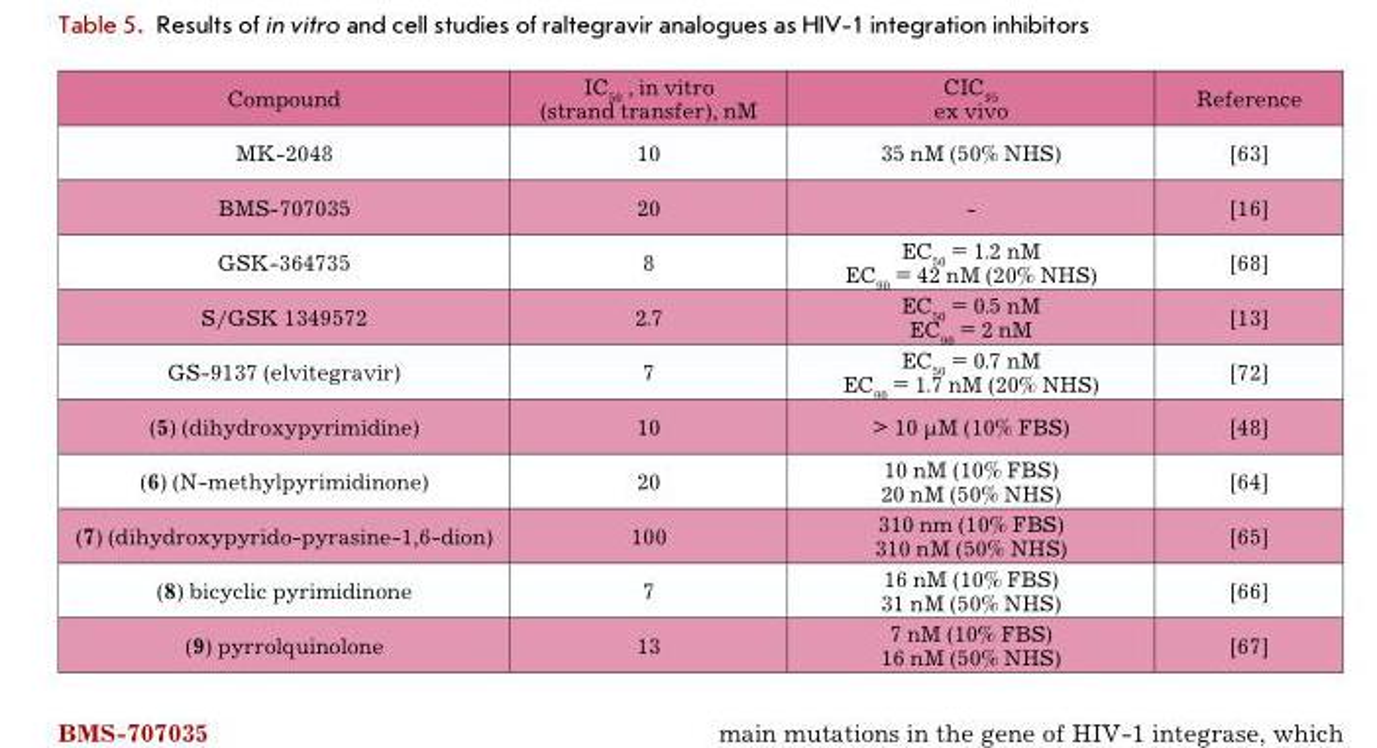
<table><thead><tr><td>Compound</td><td>IC<sub>50</sub> , in vitro (strand transfer), nM</td><td>CIC<sub>95</sub> ex vivo</td><td>Reference</td></tr></thead><tbody><tr><td>MK-2048</td><td>10</td><td>35 nM (50% NHS)</td><td>[63]</td></tr><tr><td>BMS-707035</td><td>20</td><td>-</td><td>[16]</td></tr><tr><td>GSK-364735</td><td>8</td><td>EC<sub>50</sub> = 1.2 nM EC<sub>90</sub> = 42 nM (20% NHS)</td><td>[68]</td></tr><tr><td>S/GSK 1349572</td><td>2.7</td><td>EC<sub>50</sub> = 0.5 nM EC<sub>90</sub> = 2 nM</td><td>[13]</td></tr><tr><td>GS-9137 (elvitegravir)</td><td>7</td><td>EC<sub>50</sub> = 0.7 nM EC<sub>90</sub> = 1.7 nM (20% NHS)</td><td>[72]</td></tr><tr><td>(5) (dihydroxypyrimidine)</td><td>10</td><td>&gt; 10 µM (10% FBS)</td><td>[48]</td></tr><tr><td>(6) (N-methylpyrimidinone)</td><td>20</td><td>10 nM (10% FBS) 20 nM (50% NHS)</td><td>[64]</td></tr><tr><td>(7) (dihydroxypyrido-pyrasine-1,6-dion)</td><td>100</td><td>310 nm (10% FBS) 310 nM (50% NHS)</td><td>[65]</td></tr><tr><td>(8) bicyclic pyrimidinone</td><td>7</td><td>16 nM (10% FBS) 31 nM (50% NHS)</td><td>[66]</td></tr><tr><td>(9) pyrrolquinolone</td><td>13</td><td>7 nM (10% FBS) 16 nM (50% NHS)</td><td>[67]</td></tr></tbody></table>